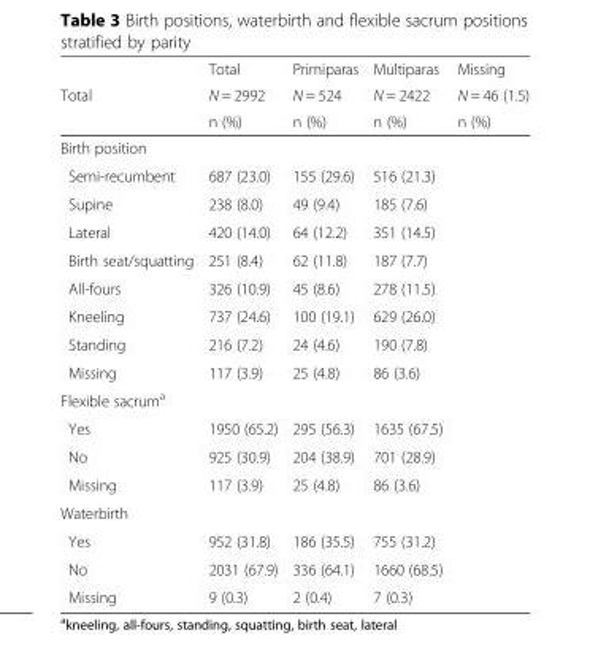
<table><thead><tr><td rowspan="3">Total</td><td rowspan="3">Total N = 2992 n (%)</td><td rowspan="3">Primiparas N = 524 n (%)</td><td rowspan="3">Multiparas N = 2422 n (%)</td><td rowspan="3">Missing N = 46 (1.5) n (%)</td></tr><tr></tr><tr></tr></thead><tbody><tr><td colspan="5">Birth position</td></tr><tr><td>Semi-recumbent</td><td>687 (23.0)</td><td>155 (29.6)</td><td>516 (21.3)</td><td></td></tr><tr><td>Supine</td><td>238 (8.0)</td><td>49 (9.4)</td><td>185 (7.6)</td><td></td></tr><tr><td>Lateral</td><td>420 (14.0)</td><td>64 (12.2)</td><td>351 (14.5)</td><td></td></tr><tr><td>Birth seat/squatting</td><td>251 (8.4)</td><td>62 (11.8)</td><td>187 (7.7)</td><td></td></tr><tr><td>All-fours</td><td>326 (10.9)</td><td>45 (8.6)</td><td>278 (11.5)</td><td></td></tr><tr><td>Kneeling</td><td>737 (24.6)</td><td>100 (19.1)</td><td>629 (26.0)</td><td></td></tr><tr><td>Standing</td><td>216 (7.2)</td><td>24 (4.6)</td><td>190 (7.8)</td><td></td></tr><tr><td>Missing</td><td>117 (3.9)</td><td>25 (4.8)</td><td>86 (3.6)</td><td></td></tr><tr><td colspan="5">Flexible sacrum<sup>a</sup></td></tr><tr><td>Yes</td><td>1950 (65.2)</td><td>295 (56.3)</td><td>1635 (67.5)</td><td></td></tr><tr><td>No</td><td>925 (30.9)</td><td>204 (38.9)</td><td>701 (28.9)</td><td></td></tr><tr><td>Missing</td><td>117 (3.9)</td><td>25 (4.8)</td><td>86 (3.6)</td><td></td></tr><tr><td colspan="5">Waterbirth</td></tr><tr><td>Yes</td><td>952 (31.8)</td><td>186 (35.5)</td><td>755 (31.2)</td><td></td></tr><tr><td>No</td><td>2031 (67.9)</td><td>336 (64.1)</td><td>1660 (68.5)</td><td></td></tr><tr><td>Missing</td><td>9 (0.3)</td><td>2 (0.4)</td><td>7 (0.3)</td><td></td></tr></tbody></table>